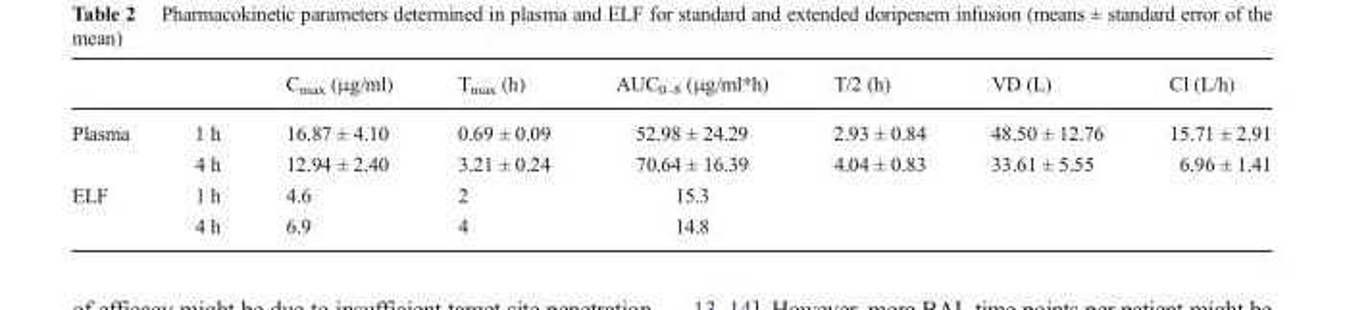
<table><thead><tr><td></td><td></td><td>C<sub>max</sub> (μg/ml)</td><td>T<sub>max</sub> (h)</td><td>AUC<sub>0–8</sub> (μg/ml*h)</td><td>T/2 (h)</td><td>VD (L)</td><td>Cl (L/h)</td></tr></thead><tbody><tr><td rowspan="2">Plasma</td><td>1 h</td><td>16.87 ± 4.10</td><td>0.69 ± 0.09</td><td>52.98 ± 24.29</td><td>2.93 ± 0.84</td><td>48.50 ± 12.76</td><td>15.71 ± 2.91</td></tr><tr><td>4 h</td><td>12.94 ± 2.40</td><td>3.21 ± 0.24</td><td>70.64 ± 16.39</td><td>4.04 ± 0.83</td><td>33.61 ± 5.55</td><td>6.96 ± 1.41</td></tr><tr><td rowspan="2">ELF</td><td>1 h</td><td>4.6</td><td>2</td><td>15.3</td><td></td><td></td><td></td></tr><tr><td>4 h</td><td>6.9</td><td>4</td><td>14.8</td><td></td><td></td><td></td></tr></tbody></table>